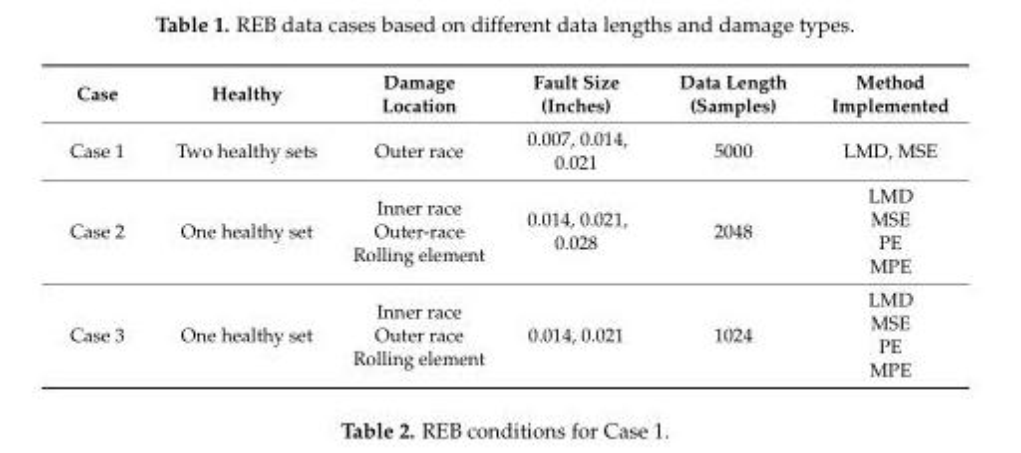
<table><thead><tr><td>Case</td><td>Healthy</td><td>Damage Location</td><td>Fault Size (Inches)</td><td>Data Length (Samples)</td><td>Method Implemented</td></tr></thead><tbody><tr><td>Case 1</td><td>Two healthy sets</td><td>Outer race</td><td>0.007, 0.014, 0.021</td><td>5000</td><td>LMD, MSE</td></tr><tr><td>Case 2</td><td>One healthy set</td><td>Inner race Outer-race Rolling element</td><td>0.014, 0.021, 0.028</td><td>2048</td><td>LMD MSE PE MPE</td></tr><tr><td>Case 3</td><td>One healthy set</td><td>Inner race Outer race Rolling element</td><td>0.014, 0.021</td><td>1024</td><td>LMD MSE PE MPE</td></tr></tbody></table>